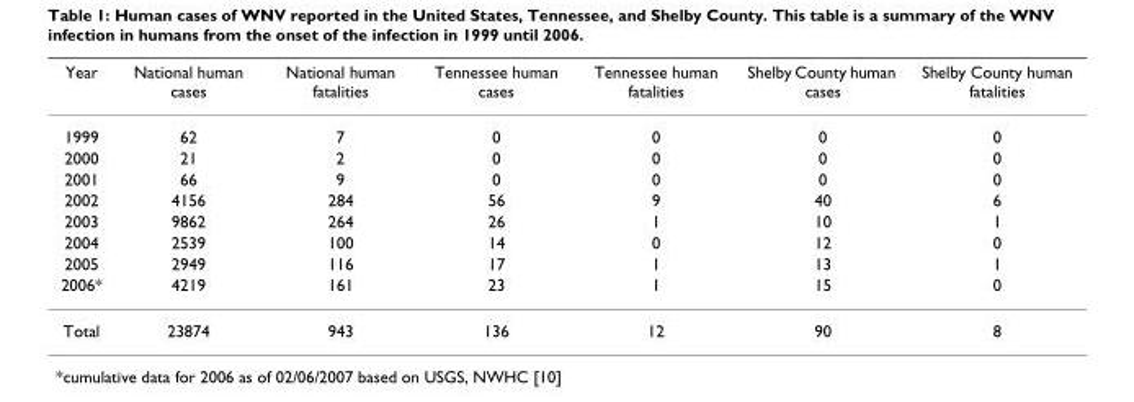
<table><thead><tr><td>Year</td><td>National human cases</td><td>National human fatalities</td><td>Tennessee human cases</td><td>Tennessee human fatalities</td><td>Shelby County human cases</td><td>Shelby County human fatalities</td></tr></thead><tbody><tr><td>1999</td><td>62</td><td>7</td><td>0</td><td>0</td><td>0</td><td>0</td></tr><tr><td>2000</td><td>21</td><td>2</td><td>0</td><td>0</td><td>0</td><td>0</td></tr><tr><td>2001</td><td>66</td><td>9</td><td>0</td><td>0</td><td>0</td><td>0</td></tr><tr><td>2002</td><td>4156</td><td>284</td><td>56</td><td>9</td><td>40</td><td>6</td></tr><tr><td>2003</td><td>9862</td><td>264</td><td>26</td><td>1</td><td>10</td><td>1</td></tr><tr><td>2004</td><td>2539</td><td>100</td><td>14</td><td>0</td><td>12</td><td>0</td></tr><tr><td>2005</td><td>2949</td><td>116</td><td>17</td><td>1</td><td>13</td><td>1</td></tr><tr><td>2006*</td><td>4219</td><td>161</td><td>23</td><td>1</td><td>15</td><td>0</td></tr><tr><td>Total</td><td>23874</td><td>943</td><td>136</td><td>12</td><td>90</td><td>8</td></tr></tbody></table>